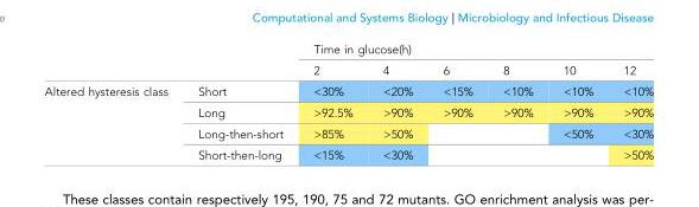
<table><thead><tr><td rowspan="2"></td><td rowspan="2"></td><td colspan="6">Time in glucose(h)</td></tr><tr><td>2</td><td>4</td><td>6</td><td>8</td><td>10</td><td>12</td></tr></thead><tbody><tr><td rowspan="4">Altered hysteresis class</td><td>Short</td><td>&lt;30%</td><td>&lt;20%</td><td>&lt;15%</td><td>&lt;10%</td><td>&lt;10%</td><td>&lt;10%</td></tr><tr><td>Long</td><td>&gt;92.5%</td><td>&gt;90%</td><td>&gt;90%</td><td>&gt;90%</td><td>&gt;90%</td><td>&gt;90%</td></tr><tr><td>Long-then-short</td><td>&gt;85%</td><td>&gt;50%</td><td></td><td></td><td>&lt;50%</td><td>&lt;30%</td></tr><tr><td>Short-then-long</td><td>&lt;15%</td><td>&lt;30%</td><td></td><td></td><td></td><td>&gt;50%</td></tr></tbody></table>